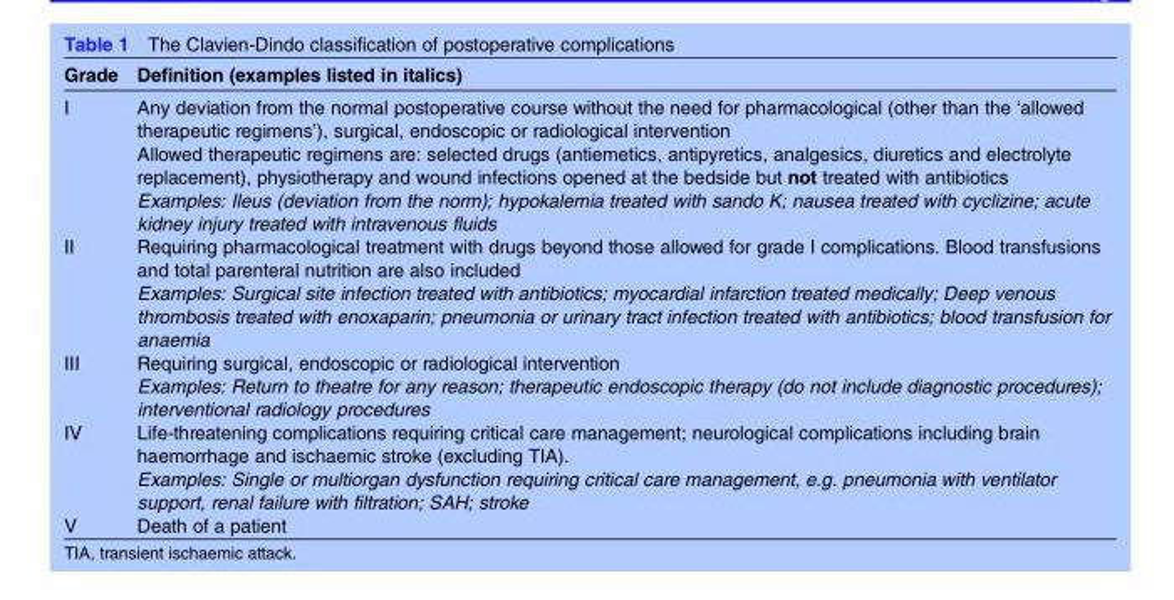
<table><thead><tr><td>Grade</td><td>Definition (examples listed in italics)</td></tr></thead><tbody><tr><td>I</td><td>Any deviation from the normal postoperative course without the need for pharmacological (other than the ‘allowed therapeutic regimens’), surgical, endoscopic or radiological intervention Allowed therapeutic regimens are: selected drugs (antiemetics, antipyretics, analgesics, diuretics and electrolyte replacement), physiotherapy and wound infections opened at the bedside but not treated with antibiotics Examples: Ileus (deviation from the norm); hypokalemia treated with sando K; nausea treated with cyclizine; acute kidney injury treated with intravenous fluids</td></tr><tr><td>II</td><td>Requiring pharmacological treatment with drugs beyond those allowed for grade I complications. Blood transfusions and total parenteral nutrition are also included Examples: Surgical site infection treated with antibiotics; myocardial infarction treated medically; Deep venous thrombosis treated with enoxaparin; pneumonia or urinary tract infection treated with antibiotics; blood transfusion for anaemia</td></tr><tr><td>III</td><td>Requiring surgical, endoscopic or radiological intervention Examples: Return to theatre for any reason; therapeutic endoscopic therapy (do not include diagnostic procedures); interventional radiology procedures</td></tr><tr><td>IV</td><td>Life-threatening complications requiring critical care management; neurological complications including brain haemorrhage and ischaemic stroke (excluding TIA). Examples: Single or multiorgan dysfunction requiring critical care management, e.g. pneumonia with ventilator support, renal failure with filtration; SAH; stroke</td></tr><tr><td>V</td><td>Death of a patient</td></tr></tbody></table>